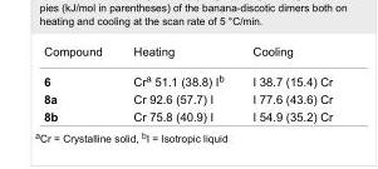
<table><tbody><tr><td>Compound</td><td>Heating</td><td>Cooling</td></tr><tr><td>6</td><td>Cr<sup>a</sup> 51.1 (38.8) I<sup>b</sup></td><td>I 38.7 (15.4) Cr</td></tr><tr><td>8a</td><td>Cr 92.6 (57.7) I</td><td>I 77.6 (43.6) Cr</td></tr><tr><td>8b</td><td>Cr 75.8 (40.9) I</td><td>I 54.9 (35.2) Cr</td></tr></tbody></table>